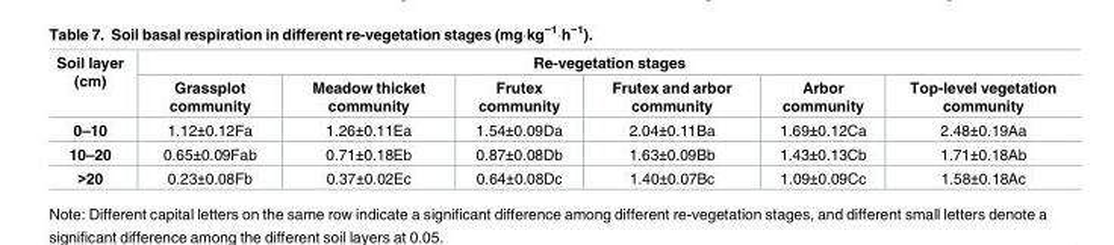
<table><thead><tr><td rowspan="2">Soil layer (cm)</td><td colspan="6">Re-vegetation stages</td></tr><tr><td>Grassplot community</td><td>Meadow thicket community</td><td>Frutex community</td><td>Frutex and arbor community</td><td>Arbor community</td><td>Top-level vegetation community</td></tr></thead><tbody><tr><td>0–10</td><td>1.12±0.12Fa</td><td>1.26±0.11Ea</td><td>1.54±0.09Da</td><td>2.04±0.11Ba</td><td>1.69±0.12Ca</td><td>2.48±0.19Aa</td></tr><tr><td>10–20</td><td>0.65±0.09Fab</td><td>0.71±0.18Eb</td><td>0.87±0.08Db</td><td>1.63±0.09Bb</td><td>1.43±0.13Cb</td><td>1.71±0.18Ab</td></tr><tr><td>&gt;20</td><td>0.23±0.08Fb</td><td>0.37±0.02Ec</td><td>0.64±0.08Dc</td><td>1.40±0.07Bc</td><td>1.09±0.09Cc</td><td>1.58±0.18Ac</td></tr></tbody></table>